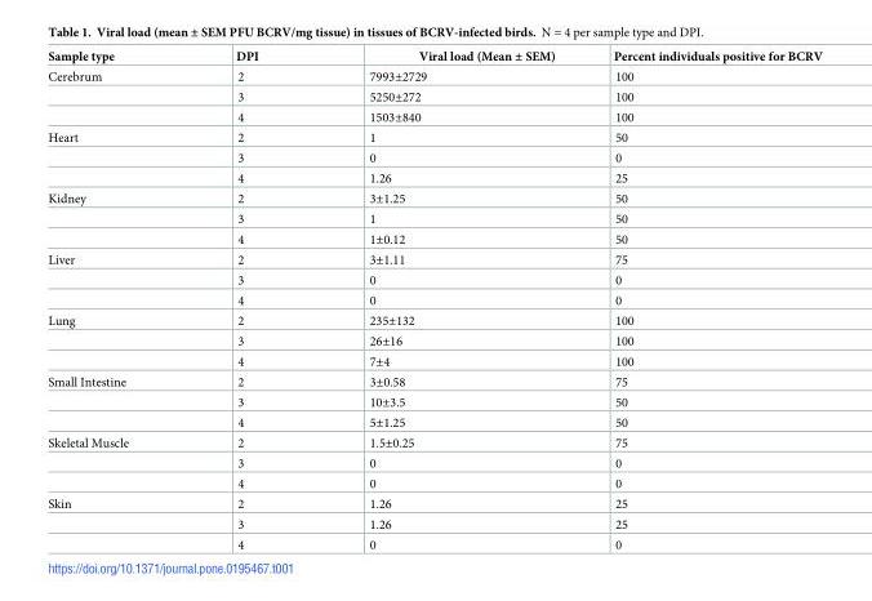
<table><thead><tr><td>Sample type</td><td>DPI</td><td>Viral load (Mean ± SEM)</td><td>Percent individuals positive for BCRV</td></tr></thead><tbody><tr><td rowspan="3">Cerebrum</td><td>2</td><td>7993±2729</td><td>100</td></tr><tr><td>3</td><td>5250±272</td><td>100</td></tr><tr><td>4</td><td>1503±840</td><td>100</td></tr><tr><td rowspan="3">Heart</td><td>2</td><td>1</td><td>50</td></tr><tr><td>3</td><td>0</td><td>0</td></tr><tr><td>4</td><td>1.26</td><td>25</td></tr><tr><td rowspan="3">Kidney</td><td>2</td><td>3±1.25</td><td>50</td></tr><tr><td>3</td><td>1</td><td>50</td></tr><tr><td>4</td><td>1±0.12</td><td>50</td></tr><tr><td rowspan="3">Liver</td><td>2</td><td>3±1.11</td><td>75</td></tr><tr><td>3</td><td>0</td><td>0</td></tr><tr><td>4</td><td>0</td><td>0</td></tr><tr><td rowspan="3">Lung</td><td>2</td><td>235±132</td><td>100</td></tr><tr><td>3</td><td>26±16</td><td>100</td></tr><tr><td>4</td><td>7±4</td><td>100</td></tr><tr><td rowspan="3">Small Intestine</td><td>2</td><td>3±0.58</td><td>75</td></tr><tr><td>3</td><td>10±3.5</td><td>50</td></tr><tr><td>4</td><td>5±1.25</td><td>50</td></tr><tr><td rowspan="3">Skeletal Muscle</td><td>2</td><td>1.5±0.25</td><td>75</td></tr><tr><td>3</td><td>0</td><td>0</td></tr><tr><td>4</td><td>0</td><td>0</td></tr><tr><td rowspan="3">Skin</td><td>2</td><td>1.26</td><td>25</td></tr><tr><td>3</td><td>1.26</td><td>25</td></tr><tr><td>4</td><td>0</td><td>0</td></tr></tbody></table>